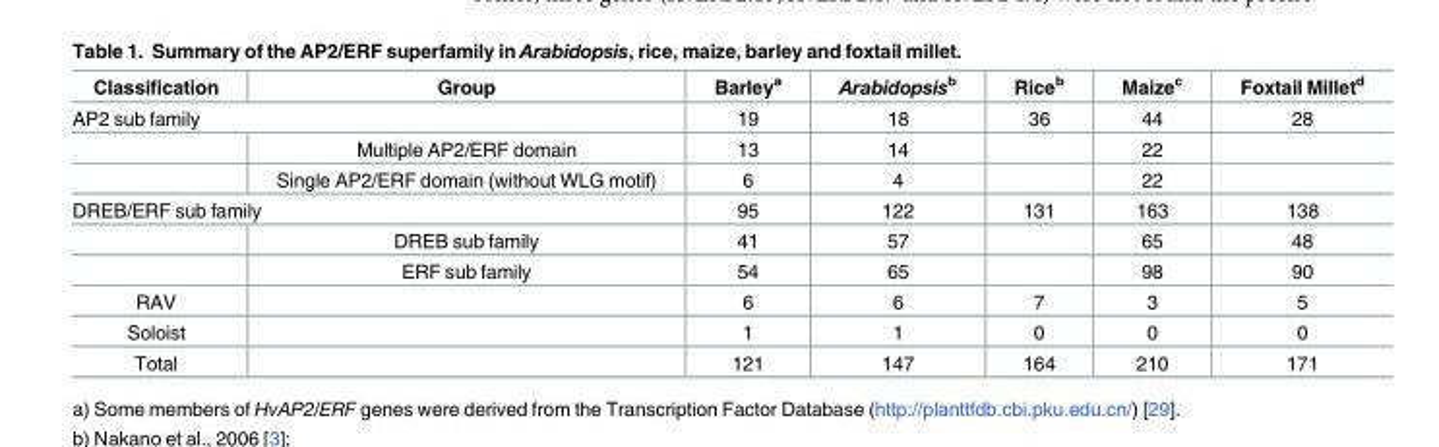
<table><thead><tr><td>Classification</td><td>Group</td><td>Barley<sup>a</sup></td><td>Arabidopsis<sup>b</sup></td><td>Rice<sup>b</sup></td><td>Maize<sup>c</sup></td><td>Foxtail Millet<sup>d</sup></td></tr></thead><tbody><tr><td colspan="2">AP2 sub family</td><td>19</td><td>18</td><td>36</td><td>44</td><td>28</td></tr><tr><td></td><td>Multiple AP2/ERF domain</td><td>13</td><td>14</td><td></td><td>22</td><td></td></tr><tr><td></td><td>Single AP2/ERF domain (without WLG motif)</td><td>6</td><td>4</td><td></td><td>22</td><td></td></tr><tr><td colspan="2">DREB/ERF sub family</td><td>95</td><td>122</td><td>131</td><td>163</td><td>138</td></tr><tr><td></td><td>DREB sub family</td><td>41</td><td>57</td><td></td><td>65</td><td>48</td></tr><tr><td></td><td>ERF sub family</td><td>54</td><td>65</td><td></td><td>98</td><td>90</td></tr><tr><td>RAV</td><td></td><td>6</td><td>6</td><td>7</td><td>3</td><td>5</td></tr><tr><td>Soloist</td><td></td><td>1</td><td>1</td><td>0</td><td>0</td><td>0</td></tr><tr><td>Total</td><td></td><td>121</td><td>147</td><td>164</td><td>210</td><td>171</td></tr></tbody></table>